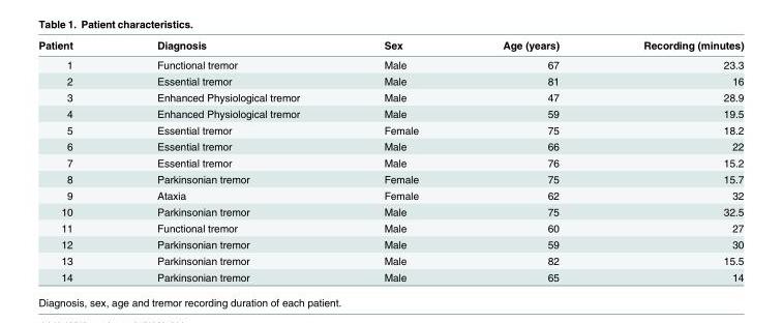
<table><thead><tr><td>Patient</td><td>Diagnosis</td><td>Sex</td><td>Age (years)</td><td>Recording (minutes)</td></tr></thead><tbody><tr><td>1</td><td>Functional tremor</td><td>Male</td><td>67</td><td>23.3</td></tr><tr><td>2</td><td>Essential tremor</td><td>Male</td><td>81</td><td>16</td></tr><tr><td>3</td><td>Enhanced Physiological tremor</td><td>Male</td><td>47</td><td>28.9</td></tr><tr><td>4</td><td>Enhanced Physiological tremor</td><td>Male</td><td>59</td><td>19.5</td></tr><tr><td>5</td><td>Essential tremor</td><td>Female</td><td>75</td><td>18.2</td></tr><tr><td>6</td><td>Essential tremor</td><td>Male</td><td>66</td><td>22</td></tr><tr><td>7</td><td>Essential tremor</td><td>Male</td><td>76</td><td>15.2</td></tr><tr><td>8</td><td>Parkinsonian tremor</td><td>Female</td><td>75</td><td>15.7</td></tr><tr><td>9</td><td>Ataxia</td><td>Female</td><td>62</td><td>32</td></tr><tr><td>10</td><td>Parkinsonian tremor</td><td>Male</td><td>75</td><td>32.5</td></tr><tr><td>11</td><td>Functional tremor</td><td>Male</td><td>60</td><td>27</td></tr><tr><td>12</td><td>Parkinsonian tremor</td><td>Male</td><td>59</td><td>30</td></tr><tr><td>13</td><td>Parkinsonian tremor</td><td>Male</td><td>82</td><td>15.5</td></tr><tr><td>14</td><td>Parkinsonian tremor</td><td>Male</td><td>65</td><td>14</td></tr></tbody></table>